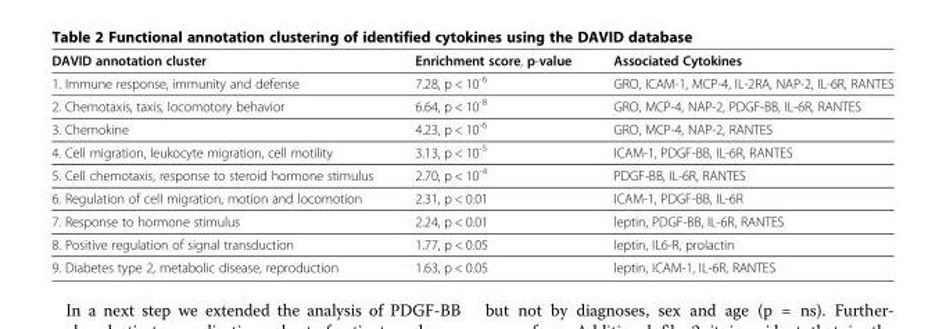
<table><thead><tr><td>DAVID annotation cluster</td><td>Enrichment score, p-value</td><td>Associated Cytokines</td></tr></thead><tbody><tr><td>1. Immune response, immunity and defense</td><td>7.28, p &lt; 10<sup>-6</sup></td><td>GRO, ICAM-1, MCP-4, IL-2RA, NAP-2, IL-6R, RANTES</td></tr><tr><td>2. Chemotaxis, taxis, locomotory behavior</td><td>6.64, p &lt; 10<sup>-8</sup></td><td>GRO, MCP-4, NAP-2, PDGF-BB, IL-6R, RANTES</td></tr><tr><td>3. Chemokine</td><td>4.23, p &lt; 10<sup>-6</sup></td><td>GRO, MCP-4, NAP-2, RANTES</td></tr><tr><td>4. Cell migration, leukocyte migration, cell motility</td><td>3.13, p &lt; 10<sup>-5</sup></td><td>ICAM-1, PDGF-BB, IL-6R, RANTES</td></tr><tr><td>5. Cell chemotaxis, response to steroid hormone stimulus</td><td>2.70, p &lt; 10<sup>-4</sup></td><td>PDGF-BB, IL-6R, RANTES</td></tr><tr><td>6. Regulation of cell migration, motion and locomotion</td><td>2.31, p &lt; 0.01</td><td>ICAM-1, PDGF-BB, IL-6R</td></tr><tr><td>7. Response to hormone stimulus</td><td>2.24, p &lt; 0.01</td><td>leptin, PDGF-BB, IL-6R, RANTES</td></tr><tr><td>8. Positive regulation of signal transduction</td><td>1.77, p &lt; 0.05</td><td>leptin, IL6-R, prolactin</td></tr><tr><td>9. Diabetes type 2, metabolic disease, reproduction</td><td>1.63, p &lt; 0.05</td><td>leptin, ICAM-1, IL-6R, RANTES</td></tr></tbody></table>